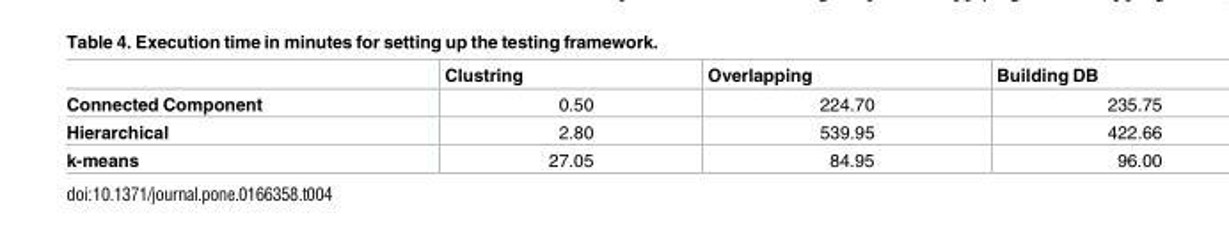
<table><thead><tr><td></td><td>Clustring</td><td>Overlapping</td><td>Building DB</td></tr></thead><tbody><tr><td>Connected Component</td><td>0.50</td><td>224.70</td><td>235.75</td></tr><tr><td>Hierarchical</td><td>2.80</td><td>539.95</td><td>422.66</td></tr><tr><td>k-means</td><td>27.05</td><td>84.95</td><td>96.00</td></tr></tbody></table>